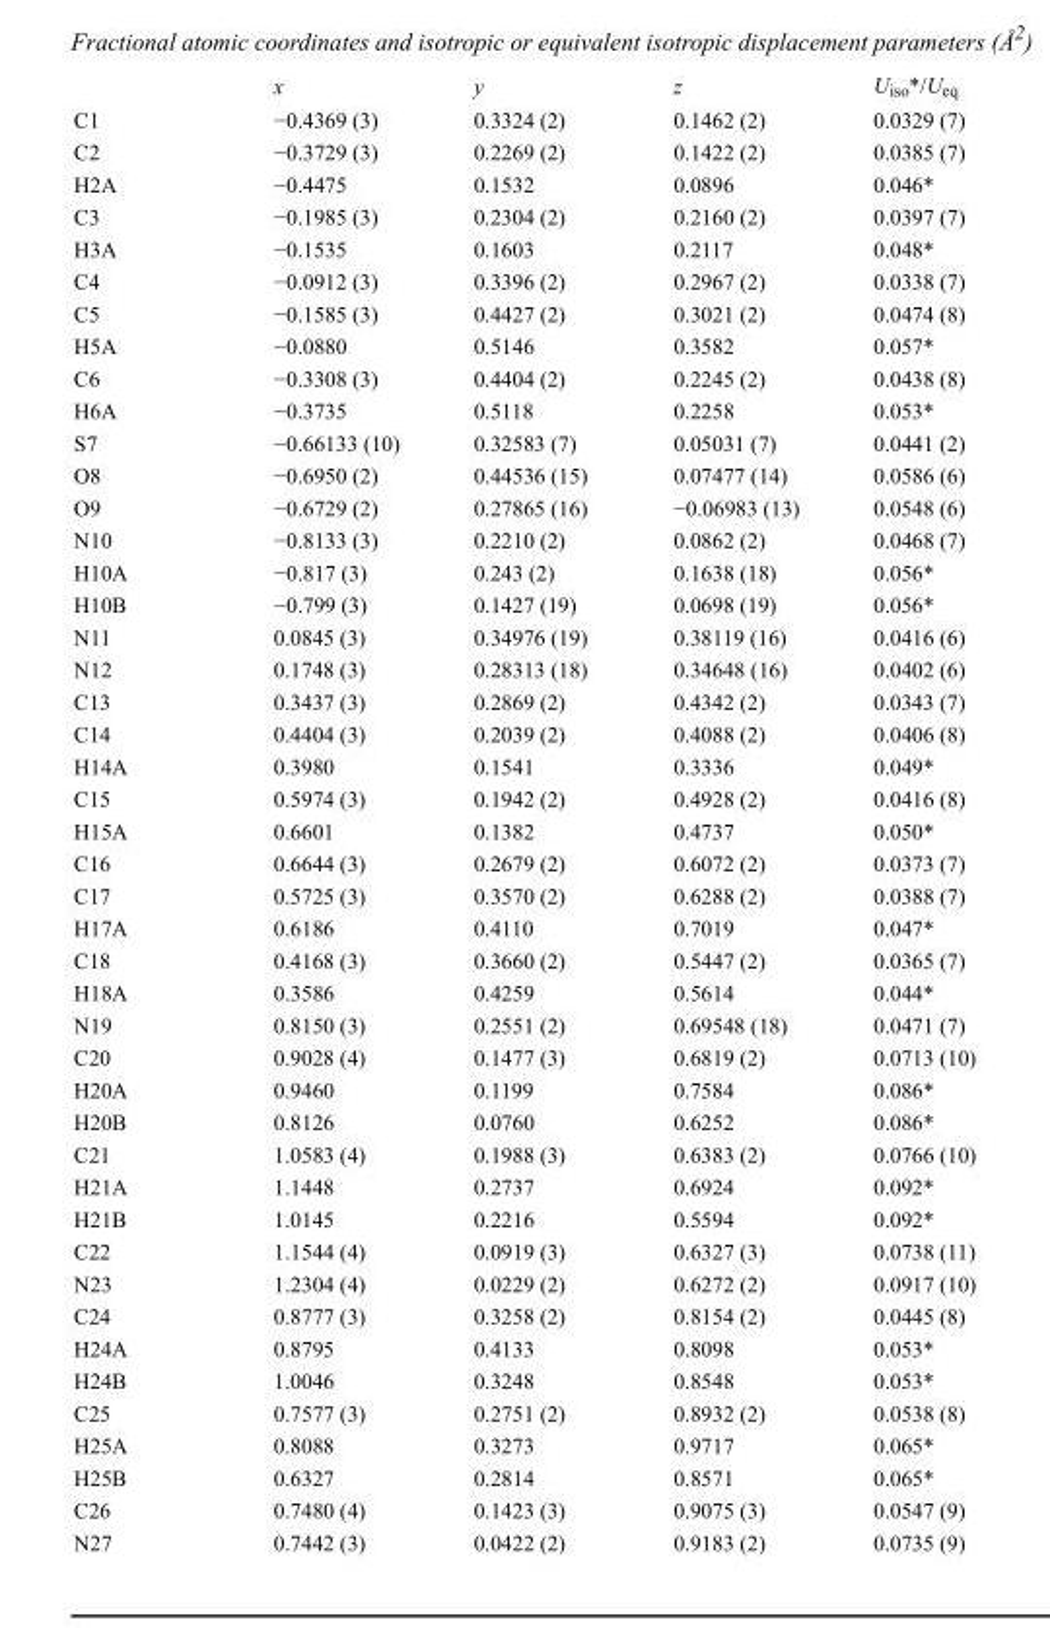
<table><thead><tr><td></td><td>x</td><td>y</td><td>z</td><td>U<sub>iso</sub>*/U<sub>eq</sub></td></tr></thead><tbody><tr><td>C1</td><td>−0.4369 (3)</td><td>0.3324 (2)</td><td>0.1462 (2)</td><td>0.0329 (7)</td></tr><tr><td>C2</td><td>−0.3729 (3)</td><td>0.2269 (2)</td><td>0.1422 (2)</td><td>0.0385 (7)</td></tr><tr><td>H2A</td><td>−0.4475</td><td>0.1532</td><td>0.0896</td><td>0.046*</td></tr><tr><td>C3</td><td>−0.1985 (3)</td><td>0.2304 (2)</td><td>0.2160 (2)</td><td>0.0397 (7)</td></tr><tr><td>H3A</td><td>−0.1535</td><td>0.1603</td><td>0.2117</td><td>0.048*</td></tr><tr><td>C4</td><td>−0.0912 (3)</td><td>0.3396 (2)</td><td>0.2967 (2)</td><td>0.0338 (7)</td></tr><tr><td>C5</td><td>−0.1585 (3)</td><td>0.4427 (2)</td><td>0.3021 (2)</td><td>0.0474 (8)</td></tr><tr><td>H5A</td><td>−0.0880</td><td>0.5146</td><td>0.3582</td><td>0.057*</td></tr><tr><td>C6</td><td>−0.3308 (3)</td><td>0.4404 (2)</td><td>0.2245 (2)</td><td>0.0438 (8)</td></tr><tr><td>H6A</td><td>−0.3735</td><td>0.5118</td><td>0.2258</td><td>0.053*</td></tr><tr><td>S7</td><td>−0.66133 (10)</td><td>0.32583 (7)</td><td>0.05031 (7)</td><td>0.0441 (2)</td></tr><tr><td>O8</td><td>−0.6950 (2)</td><td>0.44536 (15)</td><td>0.07477 (14)</td><td>0.0586 (6)</td></tr><tr><td>O9</td><td>−0.6729 (2)</td><td>0.27865 (16)</td><td>−0.06983 (13)</td><td>0.0548 (6)</td></tr><tr><td>N10</td><td>−0.8133 (3)</td><td>0.2210 (2)</td><td>0.0862 (2)</td><td>0.0468 (7)</td></tr><tr><td>H10A</td><td>−0.817 (3)</td><td>0.243 (2)</td><td>0.1638 (18)</td><td>0.056*</td></tr><tr><td>H10B</td><td>−0.799 (3)</td><td>0.1427 (19)</td><td>0.0698 (19)</td><td>0.056*</td></tr><tr><td>N11</td><td>0.0845 (3)</td><td>0.34976 (19)</td><td>0.38119 (16)</td><td>0.0416 (6)</td></tr><tr><td>N12</td><td>0.1748 (3)</td><td>0.28313 (18)</td><td>0.34648 (16)</td><td>0.0402 (6)</td></tr><tr><td>C13</td><td>0.3437 (3)</td><td>0.2869 (2)</td><td>0.4342 (2)</td><td>0.0343 (7)</td></tr><tr><td>C14</td><td>0.4404 (3)</td><td>0.2039 (2)</td><td>0.4088 (2)</td><td>0.0406 (8)</td></tr><tr><td>H14A</td><td>0.3980</td><td>0.1541</td><td>0.3336</td><td>0.049*</td></tr><tr><td>C15</td><td>0.5974 (3)</td><td>0.1942 (2)</td><td>0.4928 (2)</td><td>0.0416 (8)</td></tr><tr><td>H15A</td><td>0.6601</td><td>0.1382</td><td>0.4737</td><td>0.050*</td></tr><tr><td>C16</td><td>0.6644 (3)</td><td>0.2679 (2)</td><td>0.6072 (2)</td><td>0.0373 (7)</td></tr><tr><td>C17</td><td>0.5725 (3)</td><td>0.3570 (2)</td><td>0.6288 (2)</td><td>0.0388 (7)</td></tr><tr><td>H17A</td><td>0.6186</td><td>0.4110</td><td>0.7019</td><td>0.047*</td></tr><tr><td>C18</td><td>0.4168 (3)</td><td>0.3660 (2)</td><td>0.5447 (2)</td><td>0.0365 (7)</td></tr><tr><td>H18A</td><td>0.3586</td><td>0.4259</td><td>0.5614</td><td>0.044*</td></tr><tr><td>N19</td><td>0.8150 (3)</td><td>0.2551 (2)</td><td>0.69548 (18)</td><td>0.0471 (7)</td></tr><tr><td>C20</td><td>0.9028 (4)</td><td>0.1477 (3)</td><td>0.6819 (2)</td><td>0.0713 (10)</td></tr><tr><td>H20A</td><td>0.9460</td><td>0.1199</td><td>0.7584</td><td>0.086*</td></tr><tr><td>H20B</td><td>0.8126</td><td>0.0760</td><td>0.6252</td><td>0.086*</td></tr><tr><td>C21</td><td>1.0583 (4)</td><td>0.1988 (3)</td><td>0.6383 (2)</td><td>0.0766 (10)</td></tr><tr><td>H21A</td><td>1.1448</td><td>0.2737</td><td>0.6924</td><td>0.092*</td></tr><tr><td>H21B</td><td>1.0145</td><td>0.2216</td><td>0.5594</td><td>0.092*</td></tr><tr><td>C22</td><td>1.1544 (4)</td><td>0.0919 (3)</td><td>0.6327 (3)</td><td>0.0738 (11)</td></tr><tr><td>N23</td><td>1.2304 (4)</td><td>0.0229 (2)</td><td>0.6272 (2)</td><td>0.0917 (10)</td></tr><tr><td>C24</td><td>0.8777 (3)</td><td>0.3258 (2)</td><td>0.8154 (2)</td><td>0.0445 (8)</td></tr><tr><td>H24A</td><td>0.8795</td><td>0.4133</td><td>0.8098</td><td>0.053*</td></tr><tr><td>H24B</td><td>1.0046</td><td>0.3248</td><td>0.8548</td><td>0.053*</td></tr><tr><td>C25</td><td>0.7577 (3)</td><td>0.2751 (2)</td><td>0.8932 (2)</td><td>0.0538 (8)</td></tr><tr><td>H25A</td><td>0.8088</td><td>0.3273</td><td>0.9717</td><td>0.065*</td></tr><tr><td>H25B</td><td>0.6327</td><td>0.2814</td><td>0.8571</td><td>0.065*</td></tr><tr><td>C26</td><td>0.7480 (4)</td><td>0.1423 (3)</td><td>0.9075 (3)</td><td>0.0547 (9)</td></tr><tr><td>N27</td><td>0.7442 (3)</td><td>0.0422 (2)</td><td>0.9183 (2)</td><td>0.0735 (9)</td></tr></tbody></table>